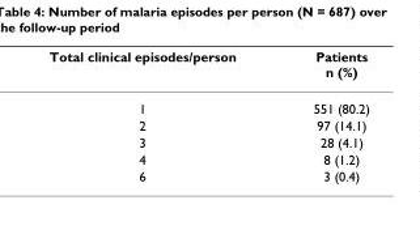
<table><thead><tr><td>Total clinical episodes/person</td><td>Patients n (%)</td></tr></thead><tbody><tr><td>1</td><td>551 (80.2)</td></tr><tr><td>2</td><td>97 (14.1)</td></tr><tr><td>3</td><td>28 (4.1)</td></tr><tr><td>4</td><td>8 (1.2)</td></tr><tr><td>6</td><td>3 (0.4)</td></tr></tbody></table>